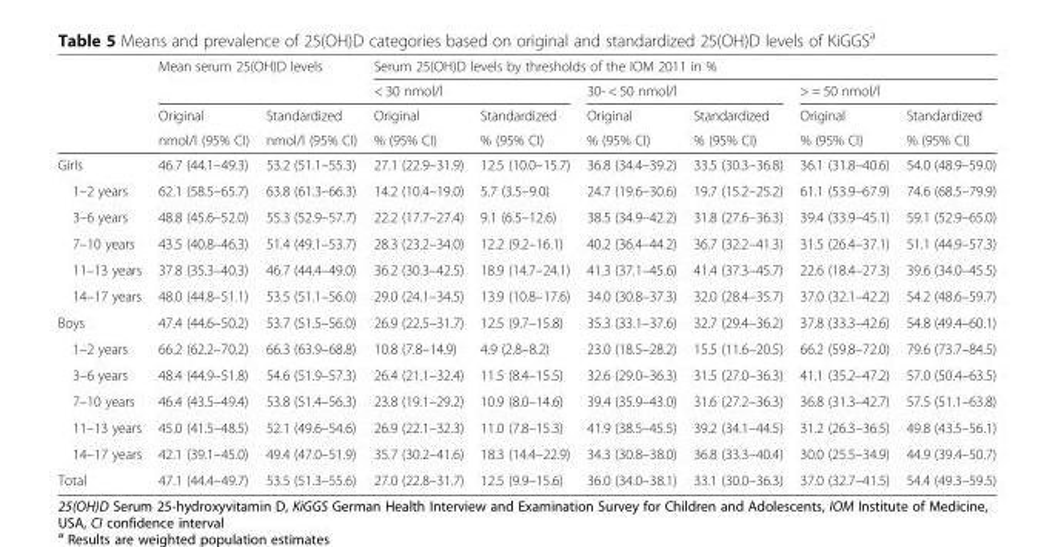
<table><thead><tr><td rowspan="4"></td><td rowspan="2" colspan="2">Mean serum 25(OH)D levels</td><td colspan="6">Serum 25(OH)D levels by thresholds of the IOM 2011 in %</td></tr><tr><td colspan="2">&lt; 30 nmol/l</td><td colspan="2">30- &lt; 50 nmol/l</td><td colspan="2">&gt; = 50 nmol/l</td></tr><tr><td rowspan="2">Original nmol/l (95% CI)</td><td rowspan="2">Standardized nmol/l (95% CI)</td><td rowspan="2">Original % (95% CI)</td><td rowspan="2">Standardized % (95% CI)</td><td rowspan="2">Original % (95% CI)</td><td rowspan="2">Standardized % (95% CI)</td><td rowspan="2">Original % (95% CI)</td><td rowspan="2">Standardized % (95% CI)</td></tr><tr></tr></thead><tbody><tr><td>Girls</td><td>46.7 (44.1–49.3)</td><td>53.2 (51.1–55.3)</td><td>27.1 (22.9–31.9)</td><td>12.5 (10.0–15.7)</td><td>36.8 (34.4–39.2)</td><td>33.5 (30.3–36.8)</td><td>36.1 (31.8–40.6)</td><td>54.0 (48.9–59.0)</td></tr><tr><td>1–2 years</td><td>62.1 (58.5–65.7)</td><td>63.8 (61.3–66.3)</td><td>14.2 (10.4–19.0)</td><td>5.7 (3.5–9.0)</td><td>24.7 (19.6–30.6)</td><td>19.7 (15.2–25.2)</td><td>61.1 (53.9–67.9)</td><td>74.6 (68.5–79.9)</td></tr><tr><td>3–6 years</td><td>48.8 (45.6–52.0)</td><td>55.3 (52.9–57.7)</td><td>22.2 (17.7–27.4)</td><td>9.1 (6.5–12.6)</td><td>38.5 (34.9–42.2)</td><td>31.8 (27.6–36.3)</td><td>39.4 (33.9–45.1)</td><td>59.1 (52.9–65.0)</td></tr><tr><td>7–10 years</td><td>43.5 (40.8–46.3)</td><td>51.4 (49.1–53.7)</td><td>28.3 (23.2–34.0)</td><td>12.2 (9.2–16.1)</td><td>40.2 (36.4–44.2)</td><td>36.7 (32.2–41.3)</td><td>31.5 (26.4–37.1)</td><td>51.1 (44.9–57.3)</td></tr><tr><td>11–13 years</td><td>37.8 (35.3–40.3)</td><td>46.7 (44.4–49.0)</td><td>36.2 (30.3–42.5)</td><td>18.9 (14.7–24.1)</td><td>41.3 (37.1–45.6)</td><td>41.4 (37.3–45.7)</td><td>22.6 (18.4–27.3)</td><td>39.6 (34.0–45.5)</td></tr><tr><td>14–17 years</td><td>48.0 (44.8–51.1)</td><td>53.5 (51.1–56.0)</td><td>29.0 (24.1–34.5)</td><td>13.9 (10.8–17.6)</td><td>34.0 (30.8–37.3)</td><td>32.0 (28.4–35.7)</td><td>37.0 (32.1–42.2)</td><td>54.2 (48.6–59.7)</td></tr><tr><td>Boys</td><td>47.4 (44.6–50.2)</td><td>53.7 (51.5–56.0)</td><td>26.9 (22.5–31.7)</td><td>12.5 (9.7–15.8)</td><td>35.3 (33.1–37.6)</td><td>32.7 (29.4–36.2)</td><td>37.8 (33.3–42.6)</td><td>54.8 (49.4–60.1)</td></tr><tr><td>1–2 years</td><td>66.2 (62.2–70.2)</td><td>66.3 (63.9–68.8)</td><td>10.8 (7.8–14.9)</td><td>4.9 (2.8–8.2)</td><td>23.0 (18.5–28.2)</td><td>15.5 (11.6–20.5)</td><td>66.2 (59.8–72.0)</td><td>79.6 (73.7–84.5)</td></tr><tr><td>3–6 years</td><td>48.4 (44.9–51.8)</td><td>54.6 (51.9–57.3)</td><td>26.4 (21.1–32.4)</td><td>11.5 (8.4–15.5)</td><td>32.6 (29.0–36.3)</td><td>31.5 (27.0–36.3)</td><td>41.1 (35.2–47.2)</td><td>57.0 (50.4–63.5)</td></tr><tr><td>7–10 years</td><td>46.4 (43.5–49.4)</td><td>53.8 (51.4–56.3)</td><td>23.8 (19.1–29.2)</td><td>10.9 (8.0–14.6)</td><td>39.4 (35.9–43.0)</td><td>31.6 (27.2–36.3)</td><td>36.8 (31.3–42.7)</td><td>57.5 (51.1–63.8)</td></tr><tr><td>11–13 years</td><td>45.0 (41.5–48.5)</td><td>52.1 (49.6–54.6)</td><td>26.9 (22.1–32.3)</td><td>11.0 (7.8–15.3)</td><td>41.9 (38.5–45.5)</td><td>39.2 (34.1–44.5)</td><td>31.2 (26.3–36.5)</td><td>49.8 (43.5–56.1)</td></tr><tr><td>14–17 years</td><td>42.1 (39.1–45.0)</td><td>49.4 (47.0–51.9)</td><td>35.7 (30.2–41.6)</td><td>18.3 (14.4–22.9)</td><td>34.3 (30.8–38.0)</td><td>36.8 (33.3–40.4)</td><td>30.0 (25.5–34.9)</td><td>44.9 (39.4–50.7)</td></tr><tr><td>Total</td><td>47.1 (44.4–49.7)</td><td>53.5 (51.3–55.6)</td><td>27.0 (22.8–31.7)</td><td>12.5 (9.9–15.6)</td><td>36.0 (34.0–38.1)</td><td>33.1 (30.0–36.3)</td><td>37.0 (32.7–41.5)</td><td>54.4 (49.3–59.5)</td></tr></tbody></table>